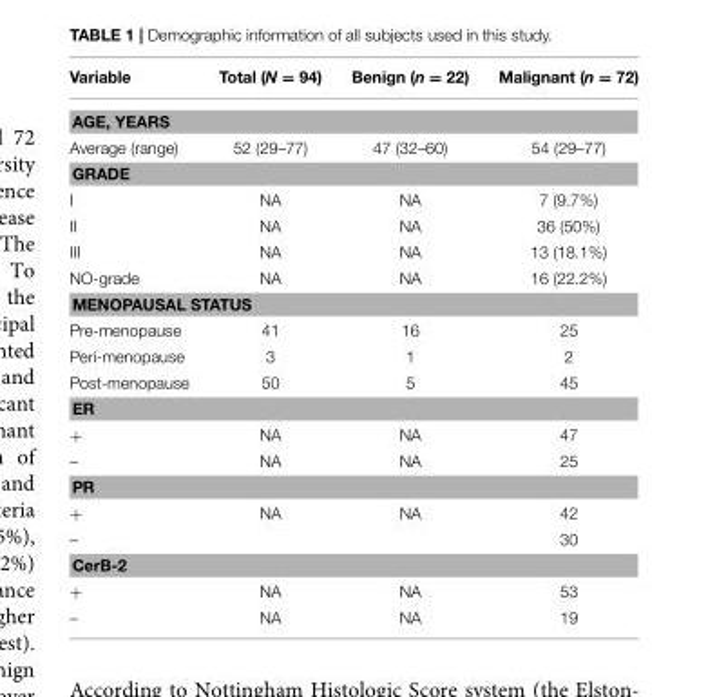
<table><thead><tr><td>Variable</td><td>Total (N = 94)</td><td>Benign (n = 22)</td><td>Malignant (n = 72)</td></tr></thead><tbody><tr><td colspan="4">AGE, YEARS</td></tr><tr><td>Average (range)</td><td>52 (29–77)</td><td>47 (32–60)</td><td>54 (29–77)</td></tr><tr><td colspan="4">GRADE</td></tr><tr><td>I</td><td>NA</td><td>NA</td><td>7 (9.7%)</td></tr><tr><td>II</td><td>NA</td><td>NA</td><td>36 (50%)</td></tr><tr><td>III</td><td>NA</td><td>NA</td><td>13 (18.1%)</td></tr><tr><td>NO-grade</td><td>NA</td><td>NA</td><td>16 (22.2%)</td></tr><tr><td colspan="4">MENOPAUSAL STATUS</td></tr><tr><td>Pre-menopause</td><td>41</td><td>16</td><td>25</td></tr><tr><td>Peri-menopause</td><td>3</td><td>1</td><td>2</td></tr><tr><td>Post-menopause</td><td>50</td><td>5</td><td>45</td></tr><tr><td colspan="4">ER</td></tr><tr><td>+</td><td>NA</td><td>NA</td><td>47</td></tr><tr><td>–</td><td>NA</td><td>NA</td><td>25</td></tr><tr><td colspan="4">PR</td></tr><tr><td>+</td><td>NA</td><td>NA</td><td>42</td></tr><tr><td>–</td><td></td><td></td><td>30</td></tr><tr><td colspan="4">CerB-2</td></tr><tr><td>+</td><td>NA</td><td>NA</td><td>53</td></tr><tr><td>–</td><td>NA</td><td>NA</td><td>19</td></tr></tbody></table>